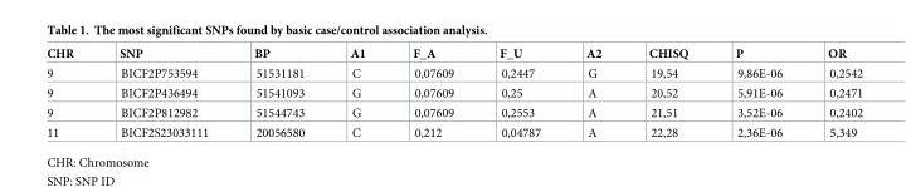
<table><thead><tr><td>CHR</td><td>SNP</td><td>BP</td><td>A1</td><td>F_A</td><td>F_U</td><td>A2</td><td>CHISQ</td><td>P</td><td>OR</td></tr></thead><tbody><tr><td>9</td><td>BICF2P753594</td><td>51531181</td><td>C</td><td>0,07609</td><td>0,2447</td><td>G</td><td>19,54</td><td>9,86E-06</td><td>0,2542</td></tr><tr><td>9</td><td>BICF2P436494</td><td>51541093</td><td>G</td><td>0,07609</td><td>0,25</td><td>A</td><td>20,52</td><td>5,91E-06</td><td>0,2471</td></tr><tr><td>9</td><td>BICF2P812982</td><td>51544743</td><td>G</td><td>0,07609</td><td>0,2553</td><td>A</td><td>21,51</td><td>3,52E-06</td><td>0,2402</td></tr><tr><td>11</td><td>BICF2S23033111</td><td>20056580</td><td>C</td><td>0,212</td><td>0,04787</td><td>A</td><td>22,28</td><td>2,36E-06</td><td>5,349</td></tr></tbody></table>